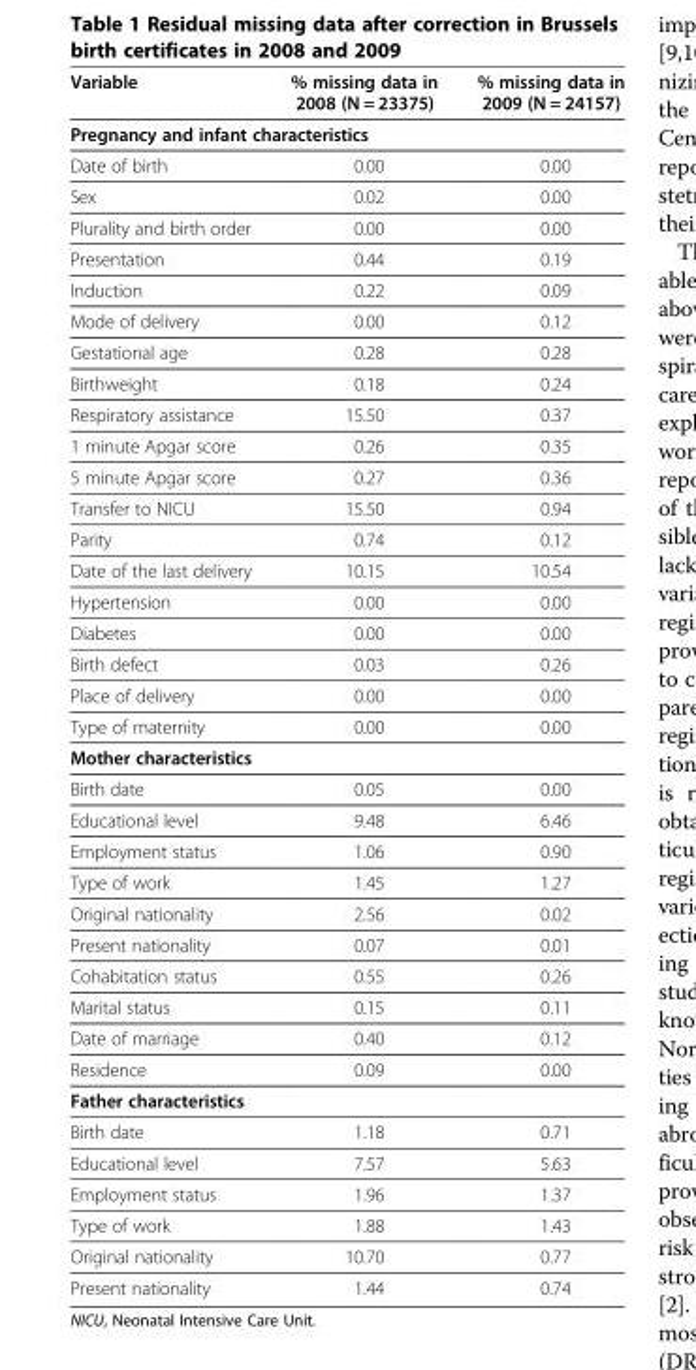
<table><thead><tr><td>Variable</td><td>% missing data in 2008 (N = 23375)</td><td>% missing data in 2009 (N = 24157)</td></tr></thead><tbody><tr><td colspan="3">Pregnancy and infant characteristics</td></tr><tr><td>Date of birth</td><td>0.00</td><td>0.00</td></tr><tr><td>Sex</td><td>0.02</td><td>0.00</td></tr><tr><td>Plurality and birth order</td><td>0.00</td><td>0.00</td></tr><tr><td>Presentation</td><td>0.44</td><td>0.19</td></tr><tr><td>Induction</td><td>0.22</td><td>0.09</td></tr><tr><td>Mode of delivery</td><td>0.00</td><td>0.12</td></tr><tr><td>Gestational age</td><td>0.28</td><td>0.28</td></tr><tr><td>Birthweight</td><td>0.18</td><td>0.24</td></tr><tr><td>Respiratory assistance</td><td>15.50</td><td>0.37</td></tr><tr><td>1 minute Apgar score</td><td>0.26</td><td>0.35</td></tr><tr><td>5 minute Apgar score</td><td>0.27</td><td>0.36</td></tr><tr><td>Transfer to NICU</td><td>15.50</td><td>0.94</td></tr><tr><td>Parity</td><td>0.74</td><td>0.12</td></tr><tr><td>Date of the last delivery</td><td>10.15</td><td>10.54</td></tr><tr><td>Hypertension</td><td>0.00</td><td>0.00</td></tr><tr><td>Diabetes</td><td>0.00</td><td>0.00</td></tr><tr><td>Birth defect</td><td>0.03</td><td>0.26</td></tr><tr><td>Place of delivery</td><td>0.00</td><td>0.00</td></tr><tr><td>Type of maternity</td><td>0.00</td><td>0.00</td></tr><tr><td colspan="3">Mother characteristics</td></tr><tr><td>Birth date</td><td>0.05</td><td>0.00</td></tr><tr><td>Educational level</td><td>9.48</td><td>6.46</td></tr><tr><td>Employment status</td><td>1.06</td><td>0.90</td></tr><tr><td>Type of work</td><td>1.45</td><td>1.27</td></tr><tr><td>Original nationality</td><td>2.56</td><td>0.02</td></tr><tr><td>Present nationality</td><td>0.07</td><td>0.01</td></tr><tr><td>Cohabitation status</td><td>0.55</td><td>0.26</td></tr><tr><td>Marital status</td><td>0.15</td><td>0.11</td></tr><tr><td>Date of marriage</td><td>0.40</td><td>0.12</td></tr><tr><td>Residence</td><td>0.09</td><td>0.00</td></tr><tr><td colspan="3">Father characteristics</td></tr><tr><td>Birth date</td><td>1.18</td><td>0.71</td></tr><tr><td>Educational level</td><td>7.57</td><td>5.63</td></tr><tr><td>Employment status</td><td>1.96</td><td>1.37</td></tr><tr><td>Type of work</td><td>1.88</td><td>1.43</td></tr><tr><td>Original nationality</td><td>10.70</td><td>0.77</td></tr><tr><td>Present nationality</td><td>1.44</td><td>0.74</td></tr></tbody></table>